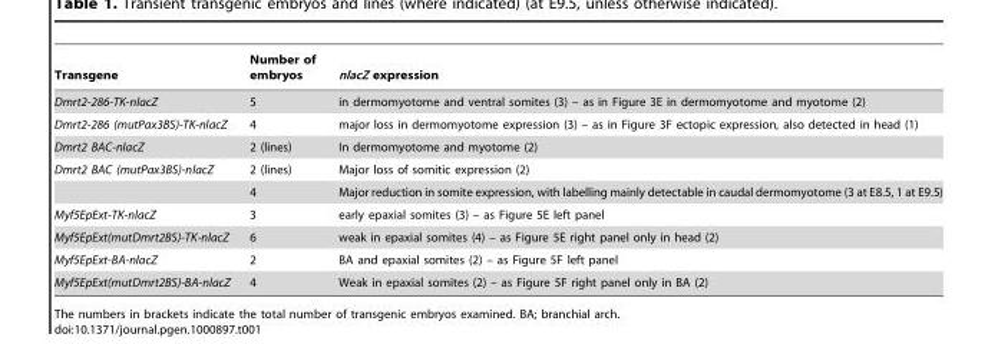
<table><thead><tr><td>Transgene</td><td>Number of embryos</td><td>nlacZ expression</td></tr></thead><tbody><tr><td>Dmrt2-286-TK-nlacZ</td><td>5</td><td>in dermomyotome and ventral somites (3) – as in Figure 3E in dermomyotome and myotome (2)</td></tr><tr><td>Dmrt2-286 (mutPax3BS)-TK-nlacZ</td><td>4</td><td>major loss in dermomyotome expression (3) – as in Figure 3F ectopic expression, also detected in head (1)</td></tr><tr><td>Dmrt2 BAC-nlacZ</td><td>2 (lines)</td><td>In dermomyotome and myotome (2)</td></tr><tr><td rowspan="2">Dmrt2 BAC (mutPax3BS)-nlacZ</td><td>2 (lines)</td><td>Major loss of somitic expression (2)</td></tr><tr><td>4</td><td>Major reduction in somite expression, with labelling mainly detectable in caudal dermomyotome (3 at E8.5, 1 at E9.5)</td></tr><tr><td>Myf5EpExt-TK-nlacZ</td><td>3</td><td>early epaxial somites (3) – as Figure 5E left panel</td></tr><tr><td>Myf5EpExt(mutDmrt2BS)-TK-nlacZ</td><td>6</td><td>weak in epaxial somites (4) – as Figure 5E right panel only in head (2)</td></tr><tr><td>Myf5EpExt-BA-nlacZ</td><td>2</td><td>BA and epaxial somites (2) – as Figure 5F left panel</td></tr><tr><td>Myf5EpExt(mutDmrt2BS)-BA-nlacZ</td><td>4</td><td>Weak in epaxial somites (2) – as Figure 5F right panel only in BA (2)</td></tr></tbody></table>